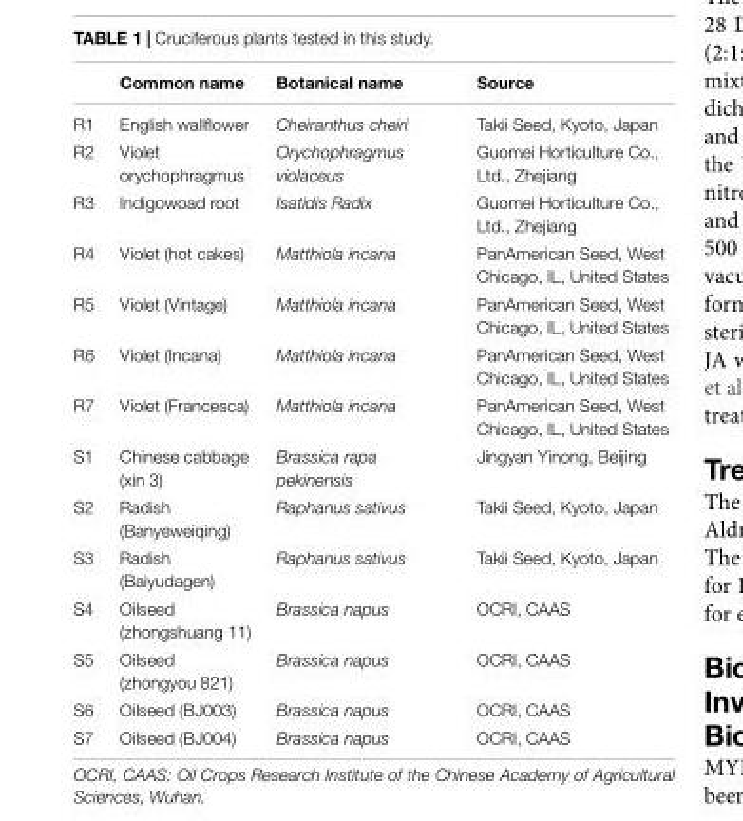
<table><thead><tr><td></td><td>Common name</td><td>Botanical name</td><td>Source</td></tr></thead><tbody><tr><td>R1</td><td>English wallflower</td><td>Cheiranthus cheiri</td><td>Takii Seed, Kyoto, Japan</td></tr><tr><td>R2</td><td>Violet orychophragmus</td><td>Orychophragmus violaceus</td><td>Guomei Horticulture Co., Ltd., Zhejiang</td></tr><tr><td>R3</td><td>Indigowoad root</td><td>Isatidis Radix</td><td>Guomei Horticulture Co., Ltd., Zhejiang</td></tr><tr><td>R4</td><td>Violet (hot cakes)</td><td>Matthiola incana</td><td>PanAmerican Seed, West Chicago, IL, United States</td></tr><tr><td>R5</td><td>Violet (Vintage)</td><td>Matthiola incana</td><td>PanAmerican Seed, West Chicago, IL, United States</td></tr><tr><td>R6</td><td>Violet (Incana)</td><td>Matthiola incana</td><td>PanAmerican Seed, West Chicago, IL, United States</td></tr><tr><td>R7</td><td>Violet (Francesca)</td><td>Matthiola incana</td><td>PanAmerican Seed, West Chicago, IL, United States</td></tr><tr><td>S1</td><td>Chinese cabbage (xin 3)</td><td>Brassica rapa pekinensis</td><td>Jingyan Yinong, Beijing</td></tr><tr><td>S2</td><td>Radish (Banyeweiqing)</td><td>Raphanus sativus</td><td>Takii Seed, Kyoto, Japan</td></tr><tr><td>S3</td><td>Radish (Baiyudagen)</td><td>Raphanus sativus</td><td>Takii Seed, Kyoto, Japan</td></tr><tr><td>S4</td><td>Oilseed (zhongshuang 11)</td><td>Brassica napus</td><td>OCRI, CAAS</td></tr><tr><td>S5</td><td>Oilseed (zhongyou 821)</td><td>Brassica napus</td><td>OCRI, CAAS</td></tr><tr><td>S6</td><td>Oilseed (BJ003)</td><td>Brassica napus</td><td>OCRI, CAAS</td></tr><tr><td>S7</td><td>Oilseed (BJ004)</td><td>Brassica napus</td><td>OCRI, CAAS</td></tr></tbody></table>